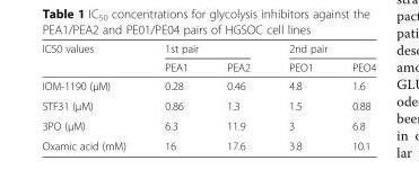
<table><thead><tr><td rowspan="2">IC50 values</td><td colspan="2">1st pair</td><td colspan="2">2nd pair</td></tr><tr><td>PEA1</td><td>PEA2</td><td>PEO1</td><td>PEO4</td></tr></thead><tbody><tr><td>IOM-1190 (μM)</td><td>0.28</td><td>0.46</td><td>4.8</td><td>1.6</td></tr><tr><td>STF31 (μM)</td><td>0.86</td><td>1.3</td><td>1.5</td><td>0.88</td></tr><tr><td>3PO (μM)</td><td>6.3</td><td>11.9</td><td>3</td><td>6.8</td></tr><tr><td>Oxamic acid (mM)</td><td>16</td><td>17.6</td><td>3.8</td><td>10.1</td></tr></tbody></table>